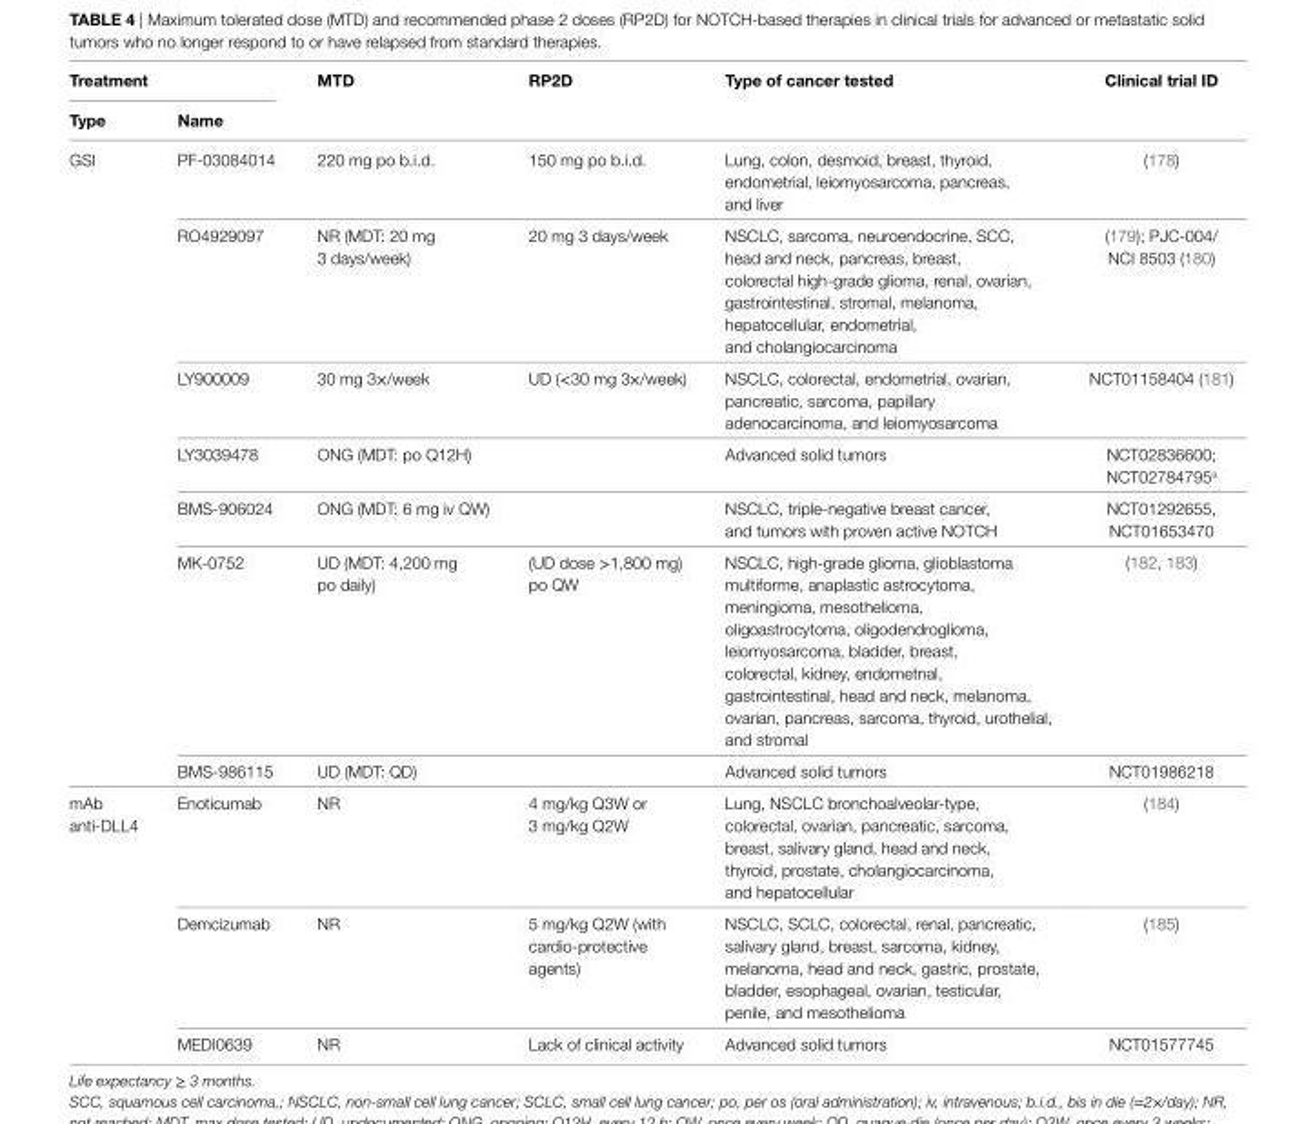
<table><thead><tr><td colspan="2">Treatment</td><td rowspan="2">MTD</td><td rowspan="2">RP2D</td><td rowspan="2">Type of cancer tested</td><td rowspan="2">Clinical trial iD</td></tr><tr><td>Type</td><td>Name</td></tr></thead><tbody><tr><td rowspan="7">GSI</td><td>PF-03084014</td><td>220 mg po b.i.d.</td><td>150 mg po b.i.d.</td><td>Lung, colon, desmoid, breast, thyroid, endometrial, leiomyosarcoma, pancreas, and liver</td><td>(178)</td></tr><tr><td>RO4929097</td><td>NR (MDT: 20 mg 3 days/week)</td><td>20 mg 3 days/week</td><td>NSCLC, sarcoma, neuroendocrine, SCC, head and neck, pancreas, breast, colorectal high-grade glioma, renal, ovarian, gastrointestinal, stromal, melanoma, hepatocellular, endometrial, and cholangiocarcinoma</td><td>(179); PJC-004/ NCI 8503 (180)</td></tr><tr><td>LY900009</td><td>30 mg 3×/week</td><td>uD (&lt;30 mg 3×/week)</td><td>NSCLC, colorectal, endometrial, ovarian, pancreatic, sarcoma, papillary adenocarcinoma, and leiomyosarcoma</td><td>NCT01158404 (181)</td></tr><tr><td>LY3039478</td><td>ONG (MDT: po Q12H)</td><td></td><td>Advanced solid tumors</td><td>NCT02836600; NCT02784795<sup>a</sup></td></tr><tr><td>BMS-906024</td><td>ONG (MDT: 6 mg iv QW)</td><td></td><td>NSCLC, triple-negative breast cancer, and tumors with proven active NOTCH</td><td>NCT01292655, NCT01653470</td></tr><tr><td>MK-0752</td><td>uD (MDT: 4,200 mg po daily)</td><td>(uD dose &gt;1,800 mg) po QW</td><td>NSCLC, high-grade glioma, glioblastoma multiforme, anaplastic astrocytoma, meningioma, mesothelioma, oligoastrocytoma, oligodendroglioma, leiomyosarcoma, bladder, breast, colorectal, kidney, endometnal, gastrointestinal, head and neck, melanoma, ovarian, pancreas, sarcoma, thyroid, urothelial, and stromal</td><td>(182, 183)</td></tr><tr><td>BMS-986115</td><td>uD (MDT: QD)</td><td></td><td>Advanced solid tumors</td><td>NCT01986218</td></tr><tr><td rowspan="3">mAb anti-DLL4</td><td>Enoticumab</td><td>NR</td><td>4 mg/kg Q3W or 3 mg/kg Q2W</td><td>Lung, NSCLC bronchoalveolar-type, colorectal, ovarian, pancreatic, sarcoma, breast, salivary gland, head and neck, thyroid, prostate, cholangiocarcinoma, and hepatocellular</td><td>(184)</td></tr><tr><td>Demcizumab</td><td>NR</td><td>5 mg/kg Q2W (with cardio-protective agents)</td><td>NSCLC, SCLC, colorectal, renal, pancreatic, salivary gland, breast, sarcoma, kidney, melanoma, head and neck, gastric, prostate, bladder, esophageal, ovarian, testicular, penile, and mesothelioma</td><td>(185)</td></tr><tr><td>MEDI0639</td><td>NR</td><td>Lack of clinical activity</td><td>Advanced solid tumors</td><td>NCT01577745</td></tr></tbody></table>